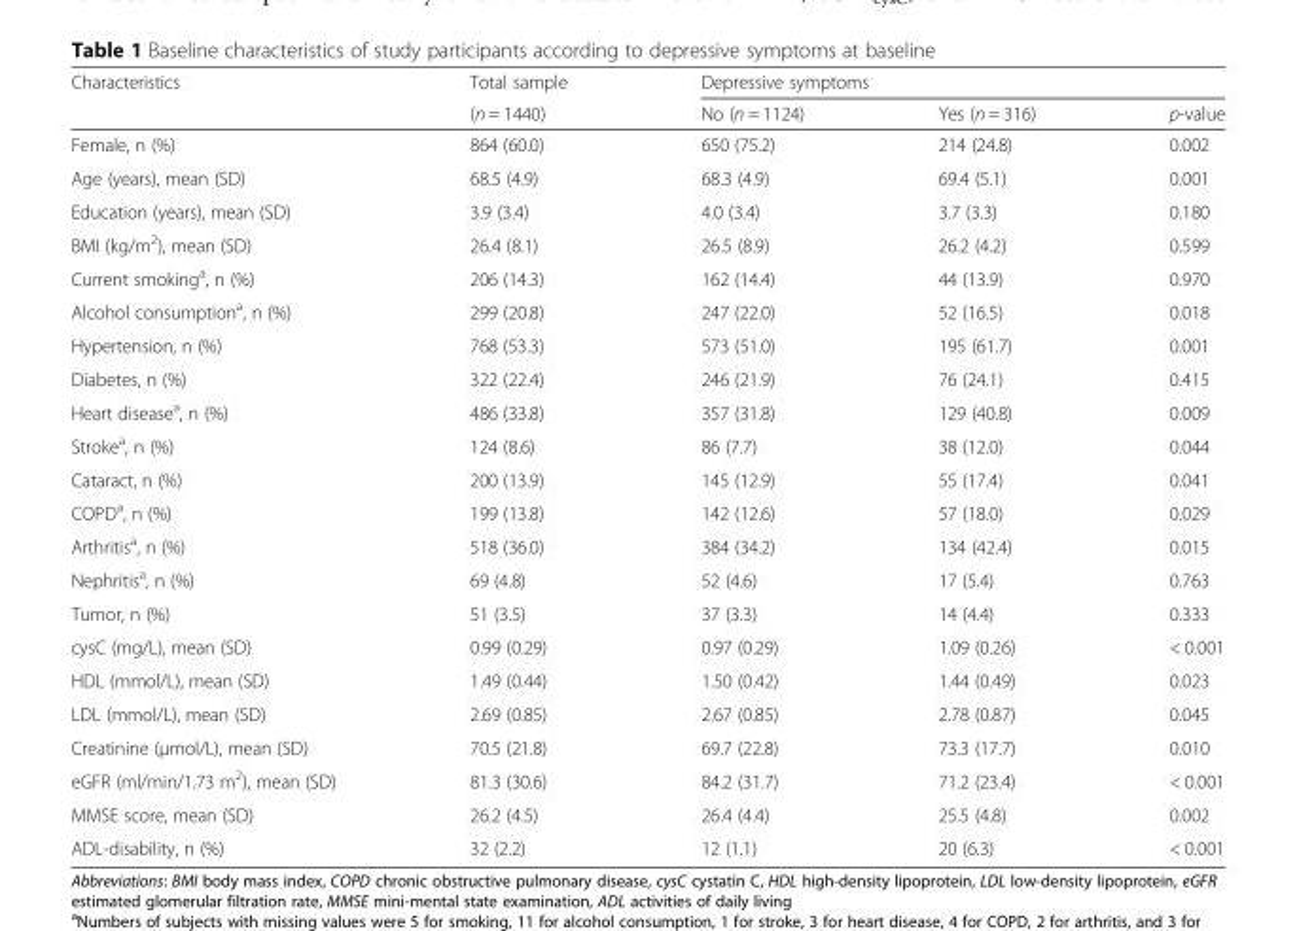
<table><thead><tr><td rowspan="2">Characteristics</td><td rowspan="2">Total sample (n = 1440)</td><td colspan="3">Depressive symptoms</td></tr><tr><td>No (n = 1124)</td><td>Yes (n = 316)</td><td>p-value</td></tr></thead><tbody><tr><td>Female, n (%)</td><td>864 (60.0)</td><td>650 (75.2)</td><td>214 (24.8)</td><td>0.002</td></tr><tr><td>Age (years), mean (SD)</td><td>68.5 (4.9)</td><td>68.3 (4.9)</td><td>69.4 (5.1)</td><td>0.001</td></tr><tr><td>Education (years), mean (SD)</td><td>3.9 (3.4)</td><td>4.0 (3.4)</td><td>3.7 (3.3)</td><td>0.180</td></tr><tr><td>BMI (kg/m<sup>2</sup>), mean (SD)</td><td>26.4 (8.1)</td><td>26.5 (8.9)</td><td>26.2 (4.2)</td><td>0.599</td></tr><tr><td>Current smoking<sup>a</sup>, n (%)</td><td>206 (14.3)</td><td>162 (14.4)</td><td>44 (13.9)</td><td>0.970</td></tr><tr><td>Alcohol consumption<sup>a</sup>, n (%)</td><td>299 (20.8)</td><td>247 (22.0)</td><td>52 (16.5)</td><td>0.018</td></tr><tr><td>Hypertension, n (%)</td><td>768 (53.3)</td><td>573 (51.0)</td><td>195 (61.7)</td><td>0.001</td></tr><tr><td>Diabetes, n (%)</td><td>322 (22.4)</td><td>246 (21.9)</td><td>76 (24.1)</td><td>0.415</td></tr><tr><td>Heart disease<sup>a</sup>, n (%)</td><td>486 (33.8)</td><td>357 (31.8)</td><td>129 (40.8)</td><td>0.009</td></tr><tr><td>Stroke<sup>a</sup>, n (%)</td><td>124 (8.6)</td><td>86 (7.7)</td><td>38 (12.0)</td><td>0.044</td></tr><tr><td>Cataract, n (%)</td><td>200 (13.9)</td><td>145 (12.9)</td><td>55 (17.4)</td><td>0.041</td></tr><tr><td>COPD<sup>a</sup>, n (%)</td><td>199 (13.8)</td><td>142 (12.6)</td><td>57 (18.0)</td><td>0.029</td></tr><tr><td>Arthritis<sup>a</sup>, n (%)</td><td>518 (36.0)</td><td>384 (34.2)</td><td>134 (42.4)</td><td>0.015</td></tr><tr><td>Nephritis<sup>a</sup>, n (%)</td><td>69 (4.8)</td><td>52 (4.6)</td><td>17 (5.4)</td><td>0.763</td></tr><tr><td>Tumor, n (%)</td><td>51 (3.5)</td><td>37 (3.3)</td><td>14 (4.4)</td><td>0.333</td></tr><tr><td>cysC (mg/L), mean (SD)</td><td>0.99 (0.29)</td><td>0.97 (0.29)</td><td>1.09 (0.26)</td><td>&lt; 0.001</td></tr><tr><td>HDL (mmol/L), mean (SD)</td><td>1.49 (0.44)</td><td>1.50 (0.42)</td><td>1.44 (0.49)</td><td>0.023</td></tr><tr><td>LDL (mmol/L), mean (SD)</td><td>2.69 (0.85)</td><td>2.67 (0.85)</td><td>2.78 (0.87)</td><td>0.045</td></tr><tr><td>Creatinine (μmol/L), mean (SD)</td><td>70.5 (21.8)</td><td>69.7 (22.8)</td><td>73.3 (17.7)</td><td>0.010</td></tr><tr><td>eGFR (ml/min/1.73 m<sup>2</sup>), mean (SD)</td><td>81.3 (30.6)</td><td>84.2 (31.7)</td><td>71.2 (23.4)</td><td>&lt; 0.001</td></tr><tr><td>MMSE score, mean (SD)</td><td>26.2 (4.5)</td><td>26.4 (4.4)</td><td>25.5 (4.8)</td><td>0.002</td></tr><tr><td>ADL-disability, n (%)</td><td>32 (2.2)</td><td>12 (1.1)</td><td>20 (6.3)</td><td>&lt; 0.001</td></tr></tbody></table>